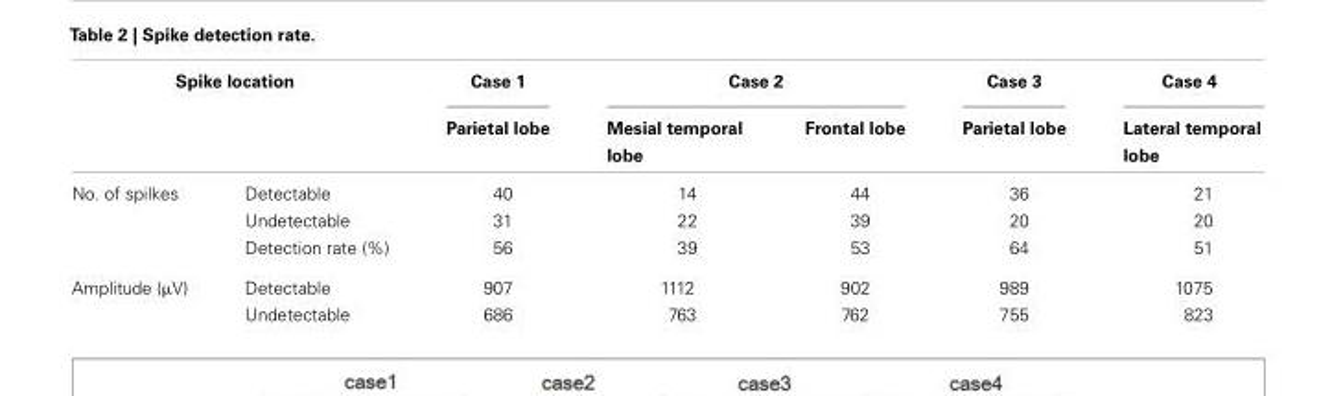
<table><thead><tr><td colspan="2">Spike location</td><td rowspan="2">Case 1 Parietal lobe</td><td colspan="2">Case 2</td><td rowspan="2">Case 3 Parietal lobe</td><td rowspan="2">Case 4 Lateral temporal lobe</td></tr><tr><td></td><td></td><td>Mesial temporal lobe</td><td>Frontal lobe</td></tr></thead><tbody><tr><td rowspan="3">No. of spilkes</td><td>Detectable</td><td>40</td><td>14</td><td>44</td><td>36</td><td>21</td></tr><tr><td>Undetectable</td><td>31</td><td>22</td><td>39</td><td>20</td><td>20</td></tr><tr><td>Detection rate (%)</td><td>56</td><td>39</td><td>53</td><td>64</td><td>51</td></tr><tr><td rowspan="2">Amplitude (µV)</td><td>Detectable</td><td>907</td><td>1112</td><td>902</td><td>989</td><td>1075</td></tr><tr><td>Undetectable</td><td>686</td><td>763</td><td>762</td><td>755</td><td>823</td></tr></tbody></table>